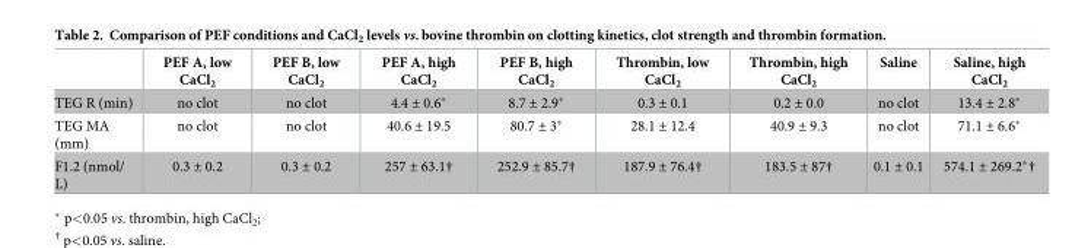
<table><thead><tr><td></td><td>PEF A, low CaCl<sub>2</sub></td><td>PEF B, low CaCl<sub>2</sub></td><td>PEF A, high CaCl<sub>2</sub></td><td>PEF B, high CaCl<sub>2</sub></td><td>Thrombin, low CaCl<sub>2</sub></td><td>Thrombin, high CaCl<sub>2</sub></td><td>Saline</td><td>Saline, high CaCl<sub>2</sub></td></tr></thead><tbody><tr><td>TEG R (min)</td><td>no clot</td><td>no clot</td><td>4.4 ± 0.6*</td><td>8.7 ± 2.9*</td><td>0.3 ± 0.1</td><td>0.2 ± 0.0</td><td>no clot</td><td>13.4 ± 2.8*</td></tr><tr><td>TEG MA (mm)</td><td>no clot</td><td>no clot</td><td>40.6 ± 19.5</td><td>80.7 ± 3*</td><td>28.1 ± 12.4</td><td>40.9 ± 9.3</td><td>no clot</td><td>71.1 ± 6.6*</td></tr><tr><td>F1.2 (nmol/ L)</td><td>0.3 ± 0.2</td><td>0.3 ± 0.2</td><td>257 ± 63.1†</td><td>252.9 ± 85.7†</td><td>187.9 ± 76.4†</td><td>183.5 ± 87†</td><td>0.1 ± 0.1</td><td>574.1 ± 269.2*†</td></tr></tbody></table>